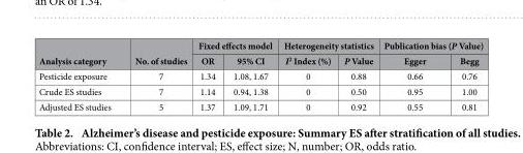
<table><thead><tr><td rowspan="2">Analysis category</td><td rowspan="2">No. of studies</td><td colspan="2">Fixed effects model</td><td colspan="2">Heterogeneity statistics</td><td colspan="2">Publication bias (P Value)</td></tr><tr><td>OR</td><td>95% CI</td><td>I<sup>2</sup> Index (%)</td><td>P Value</td><td>Egger</td><td>Begg</td></tr></thead><tbody><tr><td>Pesticide exposure</td><td>7</td><td>1.34</td><td>1.08, 1.67</td><td>0</td><td>0.88</td><td>0.66</td><td>0.76</td></tr><tr><td>Crude ES studies</td><td>7</td><td>1.14</td><td>0.94, 1.38</td><td>0</td><td>0.50</td><td>0.95</td><td>1.00</td></tr><tr><td>Adjusted ES studies</td><td>5</td><td>1.37</td><td>1.09, 1.71</td><td>0</td><td>0.92</td><td>0.55</td><td>0.81</td></tr></tbody></table>